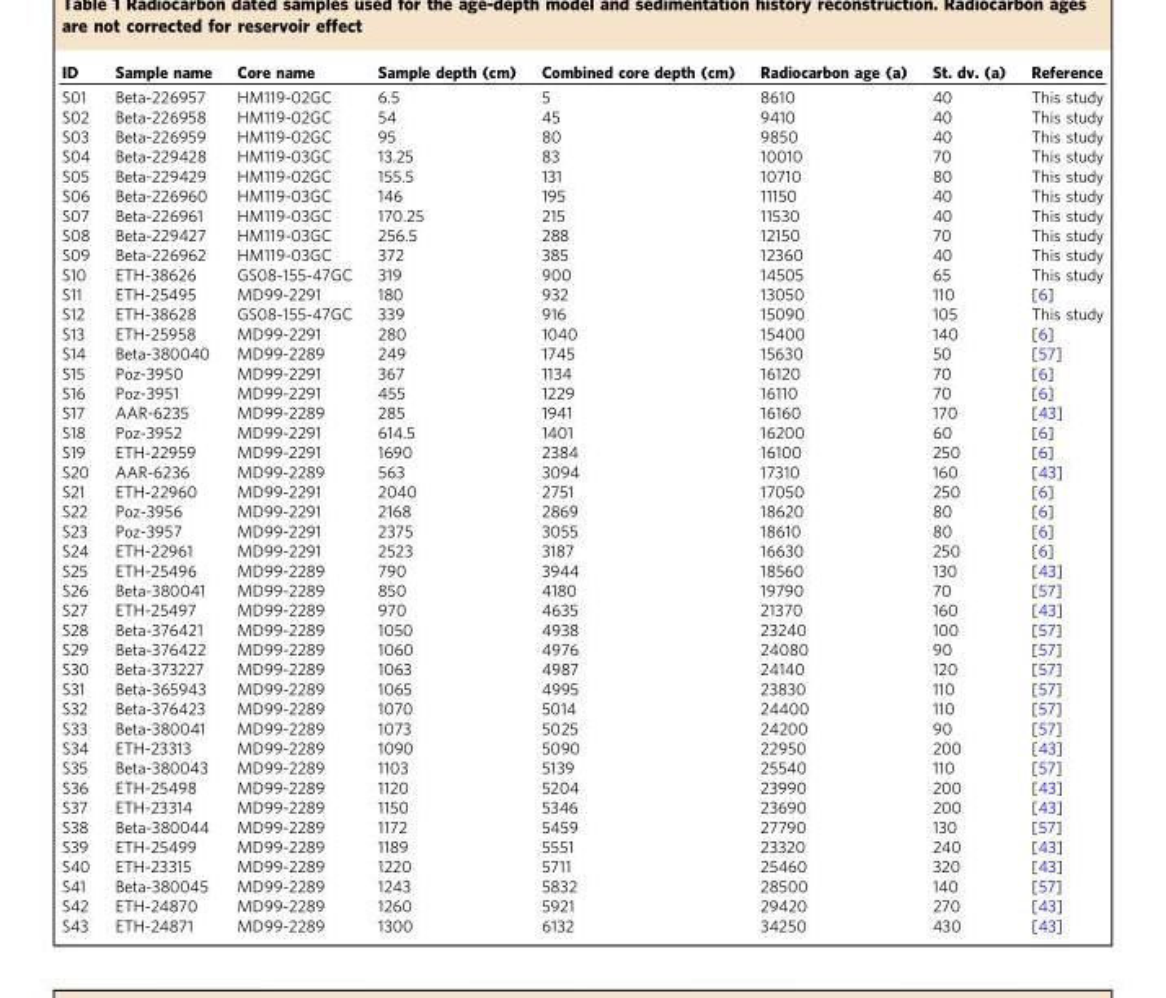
<table><thead><tr><td>ID</td><td>Sample name</td><td>Core name</td><td>Sample depth (cm)</td><td>Combined core depth (cm)</td><td>Radiocarbon age (a)</td><td>St. dv. (a)</td><td>Reference</td></tr></thead><tbody><tr><td>S01</td><td>Beta-226957</td><td>HM119-02GC</td><td>6.5</td><td>5</td><td>8610</td><td>40</td><td>This study</td></tr><tr><td>S02</td><td>Beta-226958</td><td>HM119-02GC</td><td>54</td><td>45</td><td>9410</td><td>40</td><td>This study</td></tr><tr><td>S03</td><td>Beta-226959</td><td>HM119-02GC</td><td>95</td><td>80</td><td>9850</td><td>40</td><td>This study</td></tr><tr><td>S04</td><td>Beta-229428</td><td>HM119-03GC</td><td>13.25</td><td>83</td><td>10010</td><td>70</td><td>This study</td></tr><tr><td>S05</td><td>Beta-229429</td><td>HM119-02GC</td><td>155.5</td><td>131</td><td>10710</td><td>80</td><td>This study</td></tr><tr><td>S06</td><td>Beta-226960</td><td>HM119-03GC</td><td>146</td><td>195</td><td>11150</td><td>40</td><td>This study</td></tr><tr><td>S07</td><td>Beta-226961</td><td>HM119-03GC</td><td>170.25</td><td>215</td><td>11530</td><td>40</td><td>This study</td></tr><tr><td>S08</td><td>Beta-229427</td><td>HM119-03GC</td><td>256.5</td><td>288</td><td>12150</td><td>70</td><td>This study</td></tr><tr><td>S09</td><td>Beta-226962</td><td>HM119-03GC</td><td>372</td><td>385</td><td>12360</td><td>40</td><td>This study</td></tr><tr><td>S10</td><td>ETH-38626</td><td>GS08-155-47GC</td><td>319</td><td>900</td><td>14505</td><td>65</td><td>This study</td></tr><tr><td>S11</td><td>ETH-25495</td><td>MD99-2291</td><td>180</td><td>932</td><td>13050</td><td>110</td><td>[6]</td></tr><tr><td>S12</td><td>ETH-38628</td><td>GS08-155-47GC</td><td>339</td><td>916</td><td>15090</td><td>105</td><td>This study</td></tr><tr><td>S13</td><td>ETH-25958</td><td>MD99-2291</td><td>280</td><td>1040</td><td>15400</td><td>140</td><td>[6]</td></tr><tr><td>S14</td><td>Beta-380040</td><td>MD99-2289</td><td>249</td><td>1745</td><td>15630</td><td>50</td><td>[57]</td></tr><tr><td>S15</td><td>Poz-3950</td><td>MD99-2291</td><td>367</td><td>1134</td><td>16120</td><td>70</td><td>[6]</td></tr><tr><td>S16</td><td>Poz-3951</td><td>MD99-2291</td><td>455</td><td>1229</td><td>16110</td><td>70</td><td>[6]</td></tr><tr><td>S17</td><td>AAR-6235</td><td>MD99-2289</td><td>285</td><td>1941</td><td>16160</td><td>170</td><td>[43]</td></tr><tr><td>S18</td><td>Poz-3952</td><td>MD99-2291</td><td>614.5</td><td>1401</td><td>16200</td><td>60</td><td>[6]</td></tr><tr><td>S19</td><td>ETH-22959</td><td>MD99-2291</td><td>1690</td><td>2384</td><td>16100</td><td>250</td><td>[6]</td></tr><tr><td>S20</td><td>AAR-6236</td><td>MD99-2289</td><td>563</td><td>3094</td><td>17310</td><td>160</td><td>[43]</td></tr><tr><td>S21</td><td>ETH-22960</td><td>MD99-2291</td><td>2040</td><td>2751</td><td>17050</td><td>250</td><td>[6]</td></tr><tr><td>S22</td><td>Poz-3956</td><td>MD99-2291</td><td>2168</td><td>2869</td><td>18620</td><td>80</td><td>[6]</td></tr><tr><td>S23</td><td>Poz-3957</td><td>MD99-2291</td><td>2375</td><td>3055</td><td>18610</td><td>80</td><td>[6]</td></tr><tr><td>S24</td><td>ETH-22961</td><td>MD99-2291</td><td>2523</td><td>3187</td><td>16630</td><td>250</td><td>[6]</td></tr><tr><td>S25</td><td>ETH-25496</td><td>MD99-2289</td><td>790</td><td>3944</td><td>18560</td><td>130</td><td>[43]</td></tr><tr><td>S26</td><td>Beta-380041</td><td>MD99-2289</td><td>850</td><td>4180</td><td>19790</td><td>70</td><td>[57]</td></tr><tr><td>S27</td><td>ETH-25497</td><td>MD99-2289</td><td>970</td><td>4635</td><td>21370</td><td>160</td><td>[43]</td></tr><tr><td>S28</td><td>Beta-376421</td><td>MD99-2289</td><td>1050</td><td>4938</td><td>23240</td><td>100</td><td>[57]</td></tr><tr><td>S29</td><td>Beta-376422</td><td>MD99-2289</td><td>1060</td><td>4976</td><td>24080</td><td>90</td><td>[57]</td></tr><tr><td>S30</td><td>Beta-373227</td><td>MD99-2289</td><td>1063</td><td>4987</td><td>24140</td><td>120</td><td>[57]</td></tr><tr><td>S31</td><td>Beta-365943</td><td>MD99-2289</td><td>1065</td><td>4995</td><td>23830</td><td>110</td><td>[57]</td></tr><tr><td>S32</td><td>Beta-376423</td><td>MD99-2289</td><td>1070</td><td>5014</td><td>24400</td><td>110</td><td>[57]</td></tr><tr><td>S33</td><td>Beta-380041</td><td>MD99-2289</td><td>1073</td><td>5025</td><td>24200</td><td>90</td><td>[57]</td></tr><tr><td>S34</td><td>ETH-23313</td><td>MD99-2289</td><td>1090</td><td>5090</td><td>22950</td><td>200</td><td>[43]</td></tr><tr><td>S35</td><td>Beta-380043</td><td>MD99-2289</td><td>1103</td><td>5139</td><td>25540</td><td>110</td><td>[57]</td></tr><tr><td>S36</td><td>ETH-25498</td><td>MD99-2289</td><td>1120</td><td>5204</td><td>23990</td><td>200</td><td>[43]</td></tr><tr><td>S37</td><td>ETH-23314</td><td>MD99-2289</td><td>1150</td><td>5346</td><td>23690</td><td>200</td><td>[43]</td></tr><tr><td>S38</td><td>Beta-380044</td><td>MD99-2289</td><td>1172</td><td>5459</td><td>27790</td><td>130</td><td>[57]</td></tr><tr><td>S39</td><td>ETH-25499</td><td>MD99-2289</td><td>1189</td><td>5551</td><td>23320</td><td>240</td><td>[43]</td></tr><tr><td>S40</td><td>ETH-23315</td><td>MD99-2289</td><td>1220</td><td>5711</td><td>25460</td><td>320</td><td>[43]</td></tr><tr><td>S41</td><td>Beta-380045</td><td>MD99-2289</td><td>1243</td><td>5832</td><td>28500</td><td>140</td><td>[57]</td></tr><tr><td>S42</td><td>ETH-24870</td><td>MD99-2289</td><td>1260</td><td>5921</td><td>29420</td><td>270</td><td>[43]</td></tr><tr><td>S43</td><td>ETH-24871</td><td>MD99-2289</td><td>1300</td><td>6132</td><td>34250</td><td>430</td><td>[43]</td></tr></tbody></table>